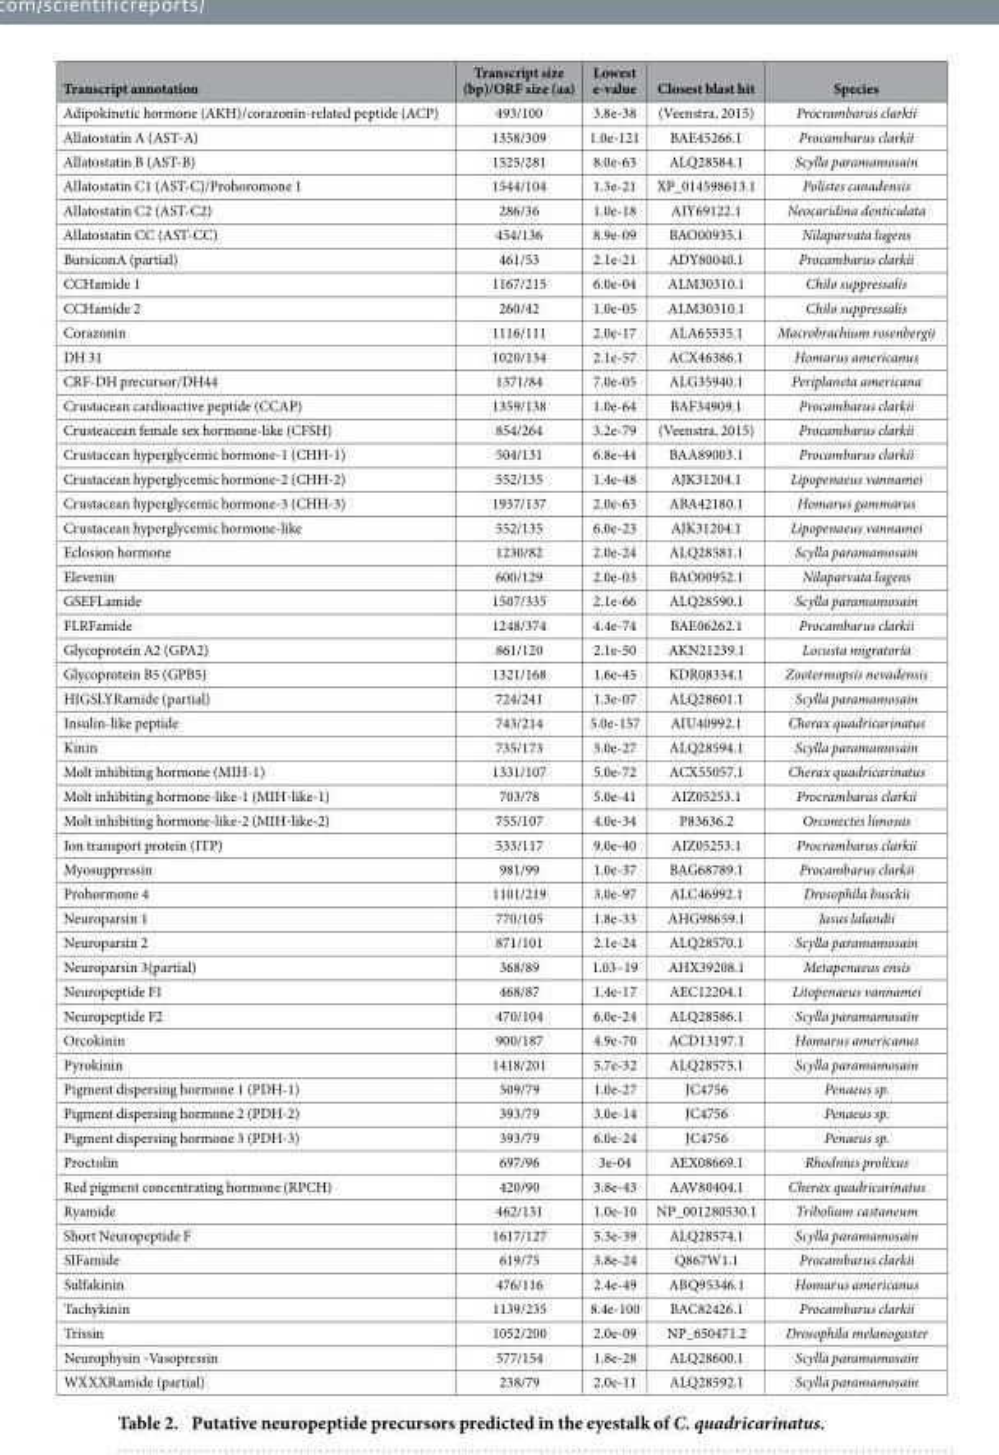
<table><thead><tr><td>Transcript annotation</td><td>Transcript size (bp)/ORF size (aa)</td><td>Lowest e-value</td><td>Closest blast hit</td><td>Species</td></tr></thead><tbody><tr><td>Adipokinetic hormone (AKH)/corazonin-related peptide (ACP)</td><td>493/100</td><td>3.8e-38</td><td>(Veenstra, 2015)</td><td>Procrambarus clarkii</td></tr><tr><td>Allatostatin A (AST-A)</td><td>1358/309</td><td>1.0e-121</td><td>BAE45266.1</td><td>Procambarus clarkii</td></tr><tr><td>Allatostatin B (AST-B)</td><td>1525/281</td><td>8.0e-63</td><td>ALQ28584.1</td><td>Scylla paramamosain</td></tr><tr><td>Allatostatin C1 (AST-C)/Prohoromone 1</td><td>1544/104</td><td>1.3e-21</td><td>XP_014598613.1</td><td>Polistes canadensis</td></tr><tr><td>Allatostatin C2 (AST-C2)</td><td>286/36</td><td>1.0e-18</td><td>AIY69122.1</td><td>Neocaridina denticulata</td></tr><tr><td>Allatostatin CC (AST-CC)</td><td>454/136</td><td>8.9e-09</td><td>BAO00935.1</td><td>Nilaparvata lugens</td></tr><tr><td>BursiconA (partial)</td><td>461/53</td><td>2.1e-21</td><td>ADY80040.1</td><td>Procambarus clarkii</td></tr><tr><td>CCHamide 1</td><td>1167/215</td><td>6.0e-04</td><td>ALM30310.1</td><td>Chilo suppressalis</td></tr><tr><td>CCHamide 2</td><td>260/42</td><td>1.0e-05</td><td>ALM30310.1</td><td>Chilo suppressalis</td></tr><tr><td>Corazonin</td><td>1116/111</td><td>2.0e-17</td><td>ALA65535.1</td><td>Macrobrachium rosenbergii</td></tr><tr><td>DH 31</td><td>1020/134</td><td>2.1e-57</td><td>ACX46386.1</td><td>Homarus americanus</td></tr><tr><td>CRF-DH precursor/DH44</td><td>1371/84</td><td>7.0e-05</td><td>ALG35940.1</td><td>Periplaneta americana</td></tr><tr><td>Crustacean cardioactive peptide (CCAP)</td><td>1359/138</td><td>1.0e-64</td><td>BAF34909.1</td><td>Procambarus clarkii</td></tr><tr><td>Crusteacean female sex hormone-like (CFSH)</td><td>854/264</td><td>3.2e-79</td><td>(Veenstra, 2015)</td><td>Procambarus clarkii</td></tr><tr><td>Crustacean hyperglycemic hormone-1 (CHH-1)</td><td>504/131</td><td>6.8e-44</td><td>BAA89003.1</td><td>Procambarus clarkii</td></tr><tr><td>Crustacean hyperglycemic hormone-2 (CHH-2)</td><td>552/135</td><td>1.4e-48</td><td>AJK31204.1</td><td>Lipopenaeus vannamei</td></tr><tr><td>Crustacean hyperglycemic hormone-3 (CHH-3)</td><td>1937/137</td><td>2.0e-63</td><td>ABA42180.1</td><td>Homarus gammarus</td></tr><tr><td>Crustacean hyperglycemic hormone-like</td><td>552/135</td><td>6.0e-23</td><td>AJK31204.1</td><td>Lipopenaeus vannamei</td></tr><tr><td>Eclosion hormone</td><td>1230/82</td><td>2.0e-24</td><td>ALQ28581.1</td><td>Scylla paramamosain</td></tr><tr><td>Elevenin</td><td>600/129</td><td>2.0e-03</td><td>BAO00952.1</td><td>Nilaparvata lugens</td></tr><tr><td>GSEFLamide</td><td>1507/335</td><td>2.1e-66</td><td>ALQ28590.1</td><td>Scylla paramamosain</td></tr><tr><td>FLRFamide</td><td>1248/374</td><td>4.4e-74</td><td>BAE06262.1</td><td>Procambarus clarkii</td></tr><tr><td>Glycoprotein A2 (GPA2)</td><td>861/120</td><td>2.1e-50</td><td>AKN21239.1</td><td>Locusta migratoria</td></tr><tr><td>Glycoprotein B5 (GPB5)</td><td>1321/168</td><td>1.6e-45</td><td>KDR08334.1</td><td>Zootermopsis nevadensis</td></tr><tr><td>HIGSLYRamide (partial)</td><td>724/241</td><td>1.3e-07</td><td>ALQ28601.1</td><td>Scylla paramamosain</td></tr><tr><td>Insulin-like peptide</td><td>743/214</td><td>5.0e-157</td><td>AIU40992.1</td><td>Cherax quadricarinatus</td></tr><tr><td>Kinin</td><td>735/173</td><td>5.0e-27</td><td>ALQ28594.1</td><td>Scylla paramamosain</td></tr><tr><td>Molt inhibiting hormone (MIH-1)</td><td>1331/107</td><td>5.0e-72</td><td>ACX55057.1</td><td>Cherax quadricarinatus</td></tr><tr><td>Molt inhibiting hormone-like-1 (MIH-like-1)</td><td>703/78</td><td>5.0e-41</td><td>AIZ05253.1</td><td>Procrambarus clarkii</td></tr><tr><td>Molt inhibiting hormone-like-2 (MIH-like-2)</td><td>755/107</td><td>4.0e-34</td><td>P83636.2</td><td>Orconectes limosus</td></tr><tr><td>Ion transport protein (ITP)</td><td>533/117</td><td>9.0e-40</td><td>AIZ05253.1</td><td>Procrambarus clarkii</td></tr><tr><td>Myosuppressin</td><td>981/99</td><td>1.0e-37</td><td>BAG68789.1</td><td>Procambarus clarkii</td></tr><tr><td>Prohormone 4</td><td>1101/219</td><td>3.0e-97</td><td>ALC46992.1</td><td>Drosophila busckii</td></tr><tr><td>Neuroparsin 1</td><td>770/105</td><td>1.8e-33</td><td>AHG98659.1</td><td>Jasus lalandii</td></tr><tr><td>Neuroparsin 2</td><td>871/101</td><td>2.1e-24</td><td>ALQ28570.1</td><td>Scylla paramamosain</td></tr><tr><td>Neuroparsin 3(partial)</td><td>368/89</td><td>1.03–19</td><td>AHX39208.1</td><td>Metapenaeus ensis</td></tr><tr><td>Neuropeptide F1</td><td>468/87</td><td>1.4e-17</td><td>AEC12204.1</td><td>Litopenaeus vannamei</td></tr><tr><td>Neuropeptide F2</td><td>470/104</td><td>6.0e-24</td><td>ALQ28586.1</td><td>Scylla paramamosain</td></tr><tr><td>Orcokinin</td><td>900/187</td><td>4.9e-70</td><td>ACD13197.1</td><td>Homarus americanus</td></tr><tr><td>Pyrokinin</td><td>1418/201</td><td>5.7e-32</td><td>ALQ28575.1</td><td>Scylla paramamosain</td></tr><tr><td>Pigment dispersing hormone 1 (PDH-1)</td><td>509/79</td><td>1.0e-27</td><td>JC4756</td><td>Penaeus sp.</td></tr><tr><td>Pigment dispersing hormone 2 (PDH-2)</td><td>393/79</td><td>3.0e-14</td><td>JC4756</td><td>Penaeus sp.</td></tr><tr><td>Pigment dispersing hormone 3 (PDH-3)</td><td>393/79</td><td>6.0e-24</td><td>JC4756</td><td>Penaeus sp.</td></tr><tr><td>Proctolin</td><td>697/96</td><td>3e-04</td><td>AEX08669.1</td><td>Rhodnius prolixus</td></tr><tr><td>Red pigment concentrating hormone (RPCH)</td><td>420/90</td><td>3.8e-43</td><td>AAV80404.1</td><td>Cherax quadricarinatus</td></tr><tr><td>Ryamide</td><td>462/131</td><td>1.0e-10</td><td>NP_001280530.1</td><td>Tribolium castaneum</td></tr><tr><td>Short Neuropeptide F</td><td>1617/127</td><td>5.3e-39</td><td>ALQ28574.1</td><td>Scylla paramamosain</td></tr><tr><td>SIFamide</td><td>619/75</td><td>3.8e-24</td><td>Q867W1.1</td><td>Procambarus clarkii</td></tr><tr><td>Sulfakinin</td><td>476/116</td><td>2.4e-49</td><td>ABQ95346.1</td><td>Homarus americanus</td></tr><tr><td>Tachykinin</td><td>1139/235</td><td>8.4e-100</td><td>BAC82426.1</td><td>Procambarus clarkii</td></tr><tr><td>Trissin</td><td>1052/200</td><td>2.0e-09</td><td>NP_650471.2</td><td>Drosophila melanogaster</td></tr><tr><td>Neurophysin -Vasopressin</td><td>577/154</td><td>1.8e-28</td><td>ALQ28600.1</td><td>Scylla paramamosain</td></tr><tr><td>WXXXRamide (partial)</td><td>238/79</td><td>2.0e-11</td><td>ALQ28592.1</td><td>Scylla paramamosain</td></tr></tbody></table>